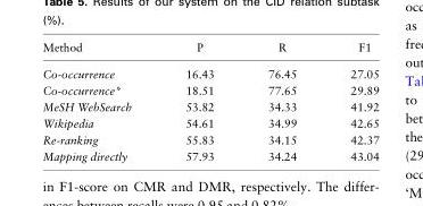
<table><thead><tr><td>Method</td><td>P</td><td>R</td><td>F1</td></tr></thead><tbody><tr><td>Co-occurrence</td><td>16.43</td><td>76.45</td><td>27.05</td></tr><tr><td>Co-occurrence*</td><td>18.51</td><td>77.65</td><td>29.89</td></tr><tr><td>MeSH WebSearch</td><td>53.82</td><td>34.33</td><td>41.92</td></tr><tr><td>Wikipedia</td><td>54.61</td><td>34.99</td><td>42.65</td></tr><tr><td>Re-ranking</td><td>55.83</td><td>34.15</td><td>42.37</td></tr><tr><td>Mapping directly</td><td>57.93</td><td>34.24</td><td>43.04</td></tr></tbody></table>